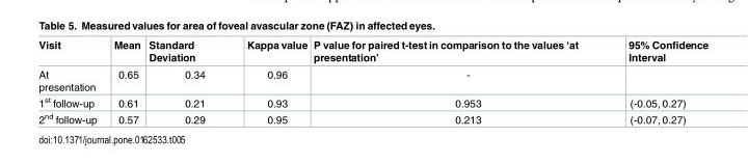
<table><thead><tr><td>Visit</td><td>Mean</td><td>Standard Deviation</td><td>Kappa value</td><td>P value for paired t-test in comparison to the values ‘at presentation’</td><td>95% Confidence Interval</td></tr></thead><tbody><tr><td>At presentation</td><td>0.65</td><td>0.34</td><td>0.96</td><td>-</td><td></td></tr><tr><td>1<sup>st</sup> follow-up</td><td>0.61</td><td>0.21</td><td>0.93</td><td>0.953</td><td>(-0.05, 0.27)</td></tr><tr><td>2<sup>nd</sup> follow-up</td><td>0.57</td><td>0.29</td><td>0.95</td><td>0.213</td><td>(-0.07, 0.27)</td></tr></tbody></table>